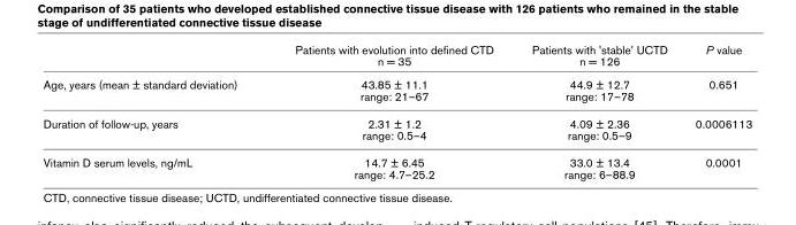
<table><thead><tr><td></td><td>Patients with evolution into defined CTD n = 35</td><td>Patients with &#x27;stable&#x27; UCTD n = 126</td><td>P value</td></tr></thead><tbody><tr><td>Age, years (mean ± standard deviation)</td><td>43.85 ± 11.1 range: 21–67</td><td>44.9 ± 12.7 range: 17–78</td><td>0.651</td></tr><tr><td>Duration of follow-up, years</td><td>2.31 ± 1.2 range: 0.5–4</td><td>4.09 ± 2.36 range: 0.5–9</td><td>0.0006113</td></tr><tr><td>Vitamin D serum levels, ng/mL</td><td>14.7 ± 6.45 range: 4.7–25.2</td><td>33.0 ± 13.4 range: 6–88.9</td><td>0.0001</td></tr></tbody></table>